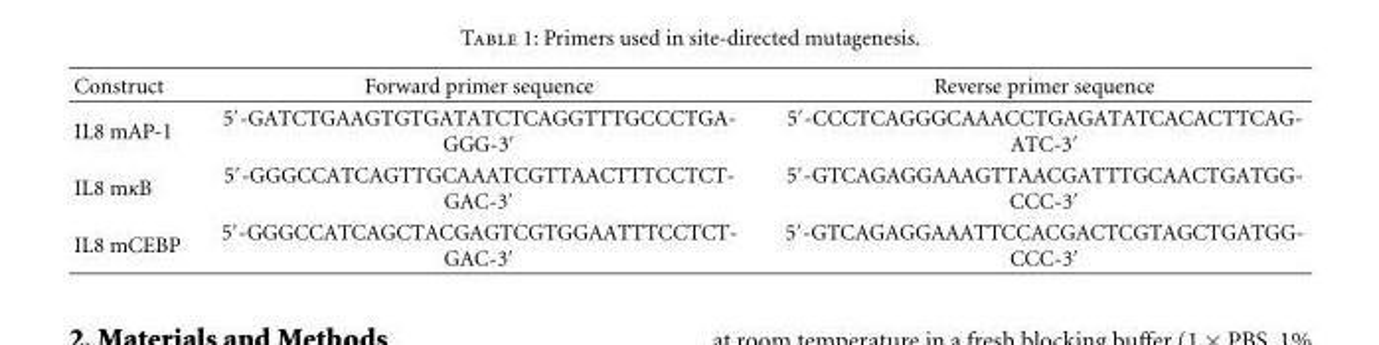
<table><thead><tr><td>Construct</td><td>Forward primer sequence</td><td>Reverse primer sequence</td></tr></thead><tbody><tr><td>IL8 mAP-1</td><td>5′-GATCTGAAGTGTGATATCTCAGGTTTGCCCTGA- GGG-3′</td><td>5′-CCCTCAGGGCAAACCTGAGATATCACACTTCAG- ATC-3′</td></tr><tr><td>IL8 mκB</td><td>5′-GGGCCATCAGTTGCAAATCGTTAACTTTCCTCT- GAC-3′</td><td>5′-GTCAGAGGAAAGTTAACGATTTGCAACTGATGG- CCC-3′</td></tr><tr><td>IL8 mCEBP</td><td>5′-GGGCCATCAGCTACGAGTCGTGGAATTTCCTCT- GAC-3′</td><td>5′-GTCAGAGGAAATTCCACGACTCGTAGCTGATGG- CCC-3′</td></tr></tbody></table>